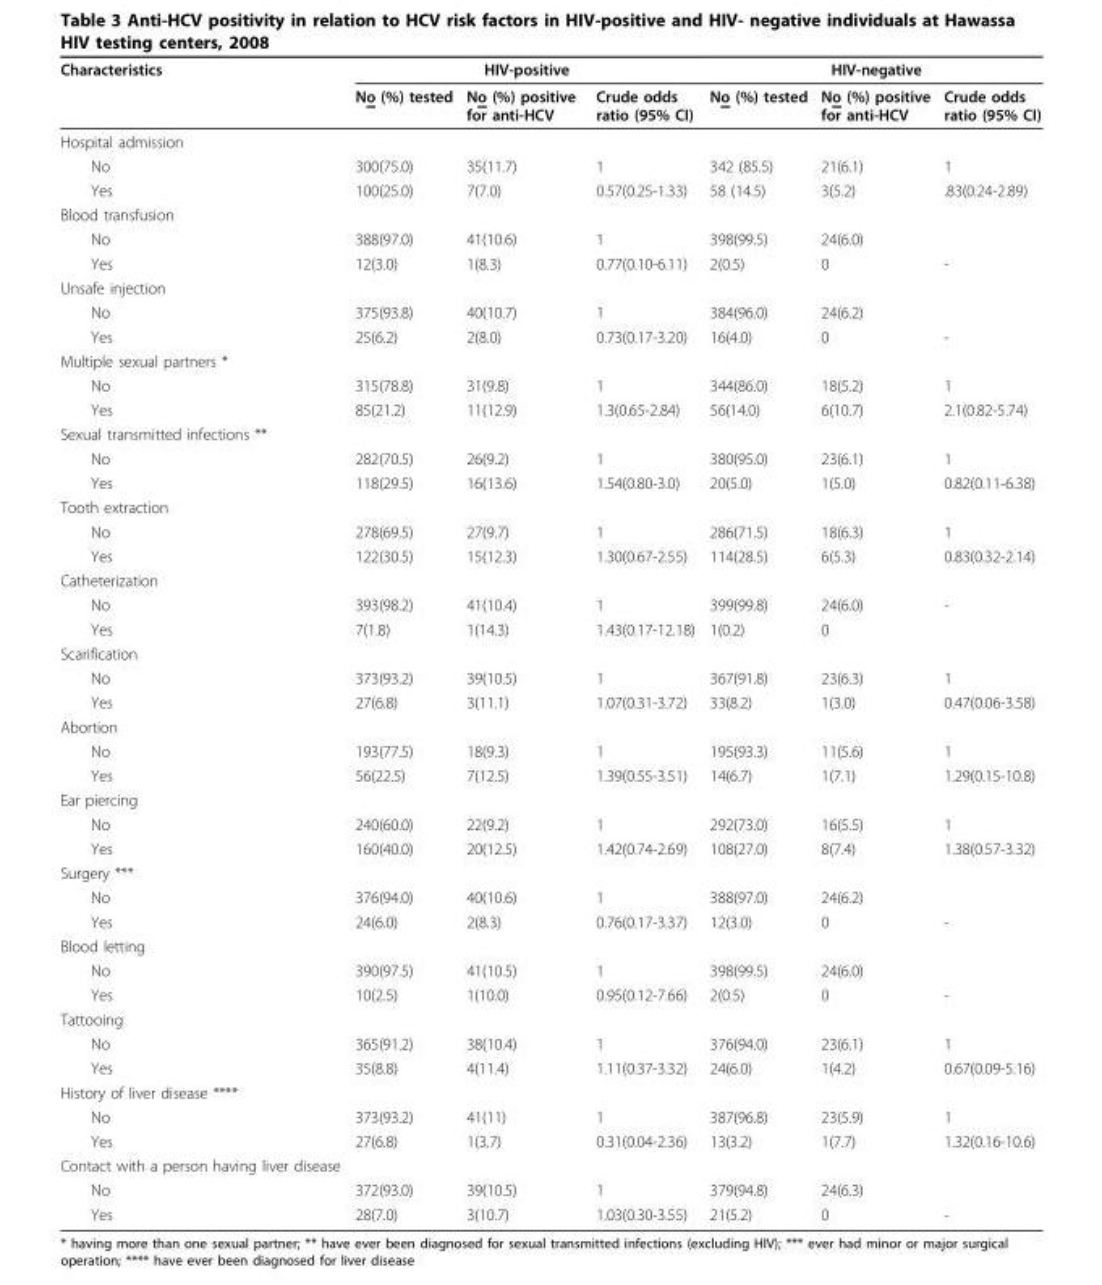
<table><thead><tr><td rowspan="2">Characteristics</td><td colspan="3">HIV-positive</td><td colspan="3">HIV-negative</td></tr><tr><td>No (%) tested</td><td>No (%) positive for anti-HCV</td><td>Crude odds ratio (95% CI)</td><td>No (%) tested</td><td>No (%) positive for anti-HCV</td><td>Crude odds ratio (95% CI)</td></tr></thead><tbody><tr><td colspan="7">Hospital admission</td></tr><tr><td>No</td><td>300(75.0)</td><td>35(11.7)</td><td>1</td><td>342 (85.5)</td><td>21(6.1)</td><td>1</td></tr><tr><td>Yes</td><td>100(25.0)</td><td>7(7.0)</td><td>0.57(0.25-1.33)</td><td>58 (14.5)</td><td>3(5.2)</td><td>.83(0.24-2.89)</td></tr><tr><td colspan="7">Blood transfusion</td></tr><tr><td>No</td><td>388(97.0)</td><td>41(10.6)</td><td>1</td><td>398(99.5)</td><td>24(6.0)</td><td></td></tr><tr><td>Yes</td><td>12(3.0)</td><td>1(8.3)</td><td>0.77(0.10-6.11)</td><td>2(0.5)</td><td>0</td><td>-</td></tr><tr><td colspan="7">Unsafe injection</td></tr><tr><td>No</td><td>375(93.8)</td><td>40(10.7)</td><td>1</td><td>384(96.0)</td><td>24(6.2)</td><td></td></tr><tr><td>Yes</td><td>25(6.2)</td><td>2(8.0)</td><td>0.73(0.17-3.20)</td><td>16(4.0)</td><td>0</td><td>-</td></tr><tr><td colspan="7">Multiple sexual partners *</td></tr><tr><td>No</td><td>315(78.8)</td><td>31(9.8)</td><td>1</td><td>344(86.0)</td><td>18(5.2)</td><td>1</td></tr><tr><td>Yes</td><td>85(21.2)</td><td>11(12.9)</td><td>1.3(0.65-2.84)</td><td>56(14.0)</td><td>6(10.7)</td><td>2.1(0.82-5.74)</td></tr><tr><td colspan="7">Sexual transmitted infections **</td></tr><tr><td>No</td><td>282(70.5)</td><td>26(9.2)</td><td>1</td><td>380(95.0)</td><td>23(6.1)</td><td>1</td></tr><tr><td>Yes</td><td>118(29.5)</td><td>16(13.6)</td><td>1.54(0.80-3.0)</td><td>20(5.0)</td><td>1(5.0)</td><td>0.82(0.11-6.38)</td></tr><tr><td colspan="7">Tooth extraction</td></tr><tr><td>No</td><td>278(69.5)</td><td>27(9.7)</td><td>1</td><td>286(71.5)</td><td>18(6.3)</td><td>1</td></tr><tr><td>Yes</td><td>122(30.5)</td><td>15(12.3)</td><td>1.30(0.67-2.55)</td><td>114(28.5)</td><td>6(5.3)</td><td>0.83(0.32-2.14)</td></tr><tr><td colspan="7">Catheterization</td></tr><tr><td>No</td><td>393(98.2)</td><td>41(10.4)</td><td>1</td><td>399(99.8)</td><td>24(6.0)</td><td>-</td></tr><tr><td>Yes</td><td>7(1.8)</td><td>1(14.3)</td><td>1.43(0.17-12.18)</td><td>1(0.2)</td><td>0</td><td></td></tr><tr><td colspan="7">Scarification</td></tr><tr><td>No</td><td>373(93.2)</td><td>39(10.5)</td><td>1</td><td>367(91.8)</td><td>23(6.3)</td><td>1</td></tr><tr><td>Yes</td><td>27(6.8)</td><td>3(11.1)</td><td>1.07(0.31-3.72)</td><td>33(8.2)</td><td>1(3.0)</td><td>0.47(0.06-3.58)</td></tr><tr><td colspan="7">Abortion</td></tr><tr><td>No</td><td>193(77.5)</td><td>18(9.3)</td><td>1</td><td>195(93.3)</td><td>11(5.6)</td><td>1</td></tr><tr><td>Yes</td><td>56(22.5)</td><td>7(12.5)</td><td>1.39(0.55-3.51)</td><td>14(6.7)</td><td>1(7.1)</td><td>1.29(0.15-10.8)</td></tr><tr><td colspan="7">Ear piercing</td></tr><tr><td>No</td><td>240(60.0)</td><td>22(9.2)</td><td>1</td><td>292(73.0)</td><td>16(5.5)</td><td>1</td></tr><tr><td>Yes</td><td>160(40.0)</td><td>20(12.5)</td><td>1.42(0.74-2.69)</td><td>108(27.0)</td><td>8(7.4)</td><td>1.38(0.57-3.32)</td></tr><tr><td colspan="7">Surgery ***</td></tr><tr><td>No</td><td>376(94.0)</td><td>40(10.6)</td><td>1</td><td>388(97.0)</td><td>24(6.2)</td><td></td></tr><tr><td>Yes</td><td>24(6.0)</td><td>2(8.3)</td><td>0.76(0.17-3.37)</td><td>12(3.0)</td><td>0</td><td>-</td></tr><tr><td colspan="7">Blood letting</td></tr><tr><td>No</td><td>390(97.5)</td><td>41(10.5)</td><td>1</td><td>398(99.5)</td><td>24(6.0)</td><td></td></tr><tr><td>Yes</td><td>10(2.5)</td><td>1(10.0)</td><td>0.95(0.12-7.66)</td><td>2(0.5)</td><td>0</td><td>-</td></tr><tr><td colspan="7">Tattooing</td></tr><tr><td>No</td><td>365(91.2)</td><td>38(10.4)</td><td>1</td><td>376(94.0)</td><td>23(6.1)</td><td>1</td></tr><tr><td>Yes</td><td>35(8.8)</td><td>4(11.4)</td><td>1.11(0.37-3.32)</td><td>24(6.0)</td><td>1(4.2)</td><td>0.67(0.09-5.16)</td></tr><tr><td colspan="7">History of liver disease ****</td></tr><tr><td>No</td><td>373(93.2)</td><td>41(11)</td><td>1</td><td>387(96.8)</td><td>23(5.9)</td><td>1</td></tr><tr><td>Yes</td><td>27(6.8)</td><td>1(3.7)</td><td>0.31(0.04-2.36)</td><td>13(3.2)</td><td>1(7.7)</td><td>1.32(0.16-10.6)</td></tr><tr><td colspan="7">Contact with a person having liver disease</td></tr><tr><td>No</td><td>372(93.0)</td><td>39(10.5)</td><td>1</td><td>379(94.8)</td><td>24(6.3)</td><td></td></tr><tr><td>Yes</td><td>28(7.0)</td><td>3(10.7)</td><td>1.03(0.30-3.55)</td><td>21(5.2)</td><td>0</td><td>-</td></tr></tbody></table>